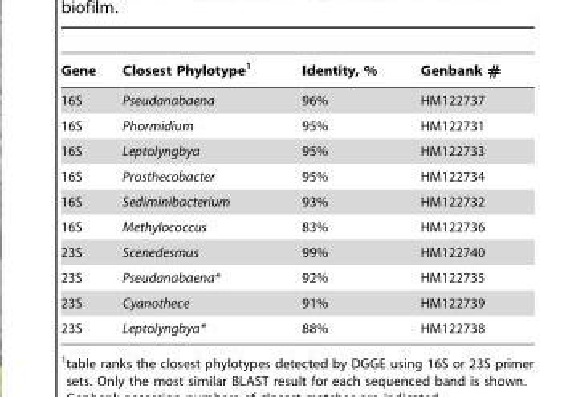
<table><thead><tr><td>Gene</td><td>Closest Phylotype<sup>1</sup></td><td>Identity, %</td><td>Genbank #</td></tr></thead><tbody><tr><td>16S</td><td>Pseudanabaena</td><td>96%</td><td>HM122737</td></tr><tr><td>16S</td><td>Phormidium</td><td>95%</td><td>HM122731</td></tr><tr><td>16S</td><td>Leptolyngbya</td><td>95%</td><td>HM122733</td></tr><tr><td>16S</td><td>Prosthecobacter</td><td>95%</td><td>HM122734</td></tr><tr><td>16S</td><td>Sediminibacterium</td><td>93%</td><td>HM122732</td></tr><tr><td>16S</td><td>Methylococcus</td><td>83%</td><td>HM122736</td></tr><tr><td>23S</td><td>Scenedesmus</td><td>99%</td><td>HM122740</td></tr><tr><td>23S</td><td>Pseudanabaena*</td><td>92%</td><td>HM122735</td></tr><tr><td>23S</td><td>Cyanothece</td><td>91%</td><td>HM122739</td></tr><tr><td>23S</td><td>Leptolyngbya*</td><td>88%</td><td>HM122738</td></tr></tbody></table>